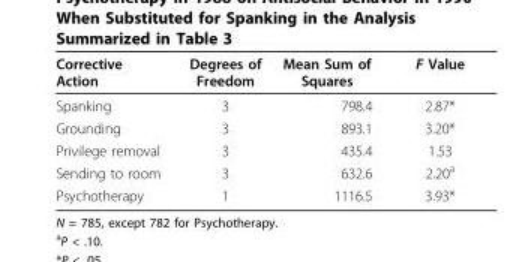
<table><thead><tr><td>Corrective Action</td><td>Degrees of Freedom</td><td>Mean Sum of Squares</td><td>F Value</td></tr></thead><tbody><tr><td>Spanking</td><td>3</td><td>798.4</td><td>2.87*</td></tr><tr><td>Grounding</td><td>3</td><td>893.1</td><td>3.20*</td></tr><tr><td>Privilege removal</td><td>3</td><td>435.4</td><td>1.53</td></tr><tr><td>Sending to room</td><td>3</td><td>632.6</td><td>2.20<sup>a</sup></td></tr><tr><td>Psychotherapy</td><td>1</td><td>1116.5</td><td>3.93*</td></tr></tbody></table>